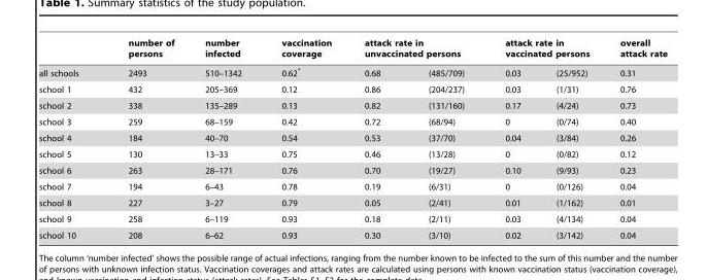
<table><thead><tr><td rowspan="2">all schools</td><td rowspan="2">number of persons 2493</td><td rowspan="2">number infected 510–1342</td><td rowspan="2">vaccination coverage 0.62*</td><td colspan="2">attack rate in unvaccinated persons</td><td colspan="2">attack rate in vaccinated persons</td><td rowspan="2">overall attack rate 0.31</td></tr><tr><td>0.68</td><td>(485/709)</td><td>0.03</td><td>(25/952)</td></tr></thead><tbody><tr><td>school 1</td><td>432</td><td>205–369</td><td>0.12</td><td>0.86</td><td>(204/237)</td><td>0.03</td><td>(1/31)</td><td>0.76</td></tr><tr><td>school 2</td><td>338</td><td>135–289</td><td>0.13</td><td>0.82</td><td>(131/160)</td><td>0.17</td><td>(4/24)</td><td>0.73</td></tr><tr><td>school 3</td><td>259</td><td>68–159</td><td>0.42</td><td>0.72</td><td>(68/94)</td><td>0</td><td>(0/74)</td><td>0.40</td></tr><tr><td>school 4</td><td>184</td><td>40–70</td><td>0.54</td><td>0.53</td><td>(37/70)</td><td>0.04</td><td>(3/84)</td><td>0.26</td></tr><tr><td>school 5</td><td>130</td><td>13–33</td><td>0.75</td><td>0.46</td><td>(13/28)</td><td>0</td><td>(0/82)</td><td>0.12</td></tr><tr><td>school 6</td><td>263</td><td>28–171</td><td>0.76</td><td>0.70</td><td>(19/27)</td><td>0.10</td><td>(9/93)</td><td>0.23</td></tr><tr><td>school 7</td><td>194</td><td>6–43</td><td>0.78</td><td>0.19</td><td>(6/31)</td><td>0</td><td>(0/126)</td><td>0.04</td></tr><tr><td>school 8</td><td>227</td><td>3–27</td><td>0.79</td><td>0.05</td><td>(2/41)</td><td>0.01</td><td>(1/162)</td><td>0.01</td></tr><tr><td>school 9</td><td>258</td><td>6–119</td><td>0.93</td><td>0.18</td><td>(2/11)</td><td>0.03</td><td>(4/134)</td><td>0.04</td></tr><tr><td>school 10</td><td>208</td><td>6–62</td><td>0.93</td><td>0.30</td><td>(3/10)</td><td>0.02</td><td>(3/142)</td><td>0.04</td></tr></tbody></table>